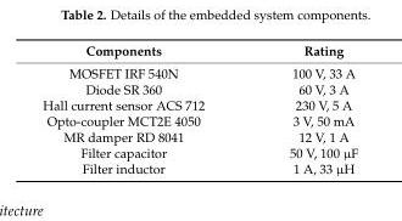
<table><thead><tr><td>Components</td><td>Rating</td></tr></thead><tbody><tr><td>MOSFET IRF 540N</td><td>100 V, 33 A</td></tr><tr><td>Diode SR 360</td><td>60 V, 3 A</td></tr><tr><td>Hall current sensor ACS 712</td><td>230 V, 5 A</td></tr><tr><td>Opto-coupler MCT2E 4050</td><td>3 V, 50 mA</td></tr><tr><td>MR damper RD 8041</td><td>12 V, 1 A</td></tr><tr><td>Filter capacitor</td><td>50 V, 100 µF</td></tr><tr><td>Filter inductor</td><td>1 A, 33 µH</td></tr></tbody></table>